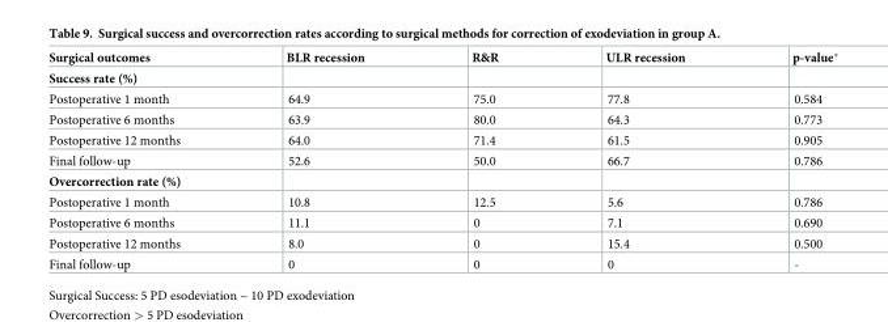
<table><thead><tr><td>Surgical outcomes</td><td>BLR recession</td><td>R&amp;R</td><td>ULR recession</td><td>p-value*</td></tr></thead><tbody><tr><td colspan="5">Success rate (%)</td></tr><tr><td>Postoperative 1 month</td><td>64.9</td><td>75.0</td><td>77.8</td><td>0.584</td></tr><tr><td>Postoperative 6 months</td><td>63.9</td><td>80.0</td><td>64.3</td><td>0.773</td></tr><tr><td>Postoperative 12 months</td><td>64.0</td><td>71.4</td><td>61.5</td><td>0.905</td></tr><tr><td>Final follow-up</td><td>52.6</td><td>50.0</td><td>66.7</td><td>0.786</td></tr><tr><td colspan="5">Overcorrection rate (%)</td></tr><tr><td>Postoperative 1 month</td><td>10.8</td><td>12.5</td><td>5.6</td><td>0.786</td></tr><tr><td>Postoperative 6 months</td><td>11.1</td><td>0</td><td>7.1</td><td>0.690</td></tr><tr><td>Postoperative 12 months</td><td>8.0</td><td>0</td><td>15.4</td><td>0.500</td></tr><tr><td>Final follow-up</td><td>0</td><td>0</td><td>0</td><td>-</td></tr></tbody></table>